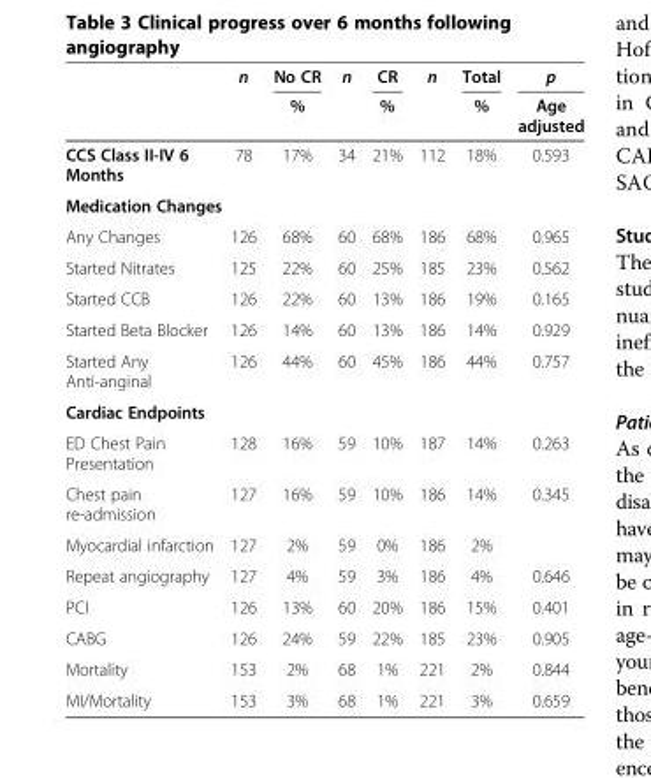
<table><thead><tr><td rowspan="2"></td><td rowspan="2">n</td><td rowspan="2">No CR %</td><td rowspan="2">n</td><td rowspan="2">CR %</td><td rowspan="2">n</td><td rowspan="2">Total %</td><td rowspan="2">p Age adjusted</td></tr><tr></tr></thead><tbody><tr><td>CCS Class II-IV 6 Months</td><td>78</td><td>17%</td><td>34</td><td>21%</td><td>112</td><td>18%</td><td>0.593</td></tr><tr><td colspan="8">Medication Changes</td></tr><tr><td>Any Changes</td><td>126</td><td>68%</td><td>60</td><td>68%</td><td>186</td><td>68%</td><td>0.965</td></tr><tr><td>Started Nitrates</td><td>125</td><td>22%</td><td>60</td><td>25%</td><td>185</td><td>23%</td><td>0.562</td></tr><tr><td>Started CCB</td><td>126</td><td>22%</td><td>60</td><td>13%</td><td>186</td><td>19%</td><td>0.165</td></tr><tr><td>Started Beta Blocker</td><td>126</td><td>14%</td><td>60</td><td>13%</td><td>186</td><td>14%</td><td>0.929</td></tr><tr><td>Started Any Anti-anginal</td><td>126</td><td>44%</td><td>60</td><td>45%</td><td>186</td><td>44%</td><td>0.757</td></tr><tr><td colspan="8">Cardiac Endpoints</td></tr><tr><td>ED Chest Pain Presentation</td><td>128</td><td>16%</td><td>59</td><td>10%</td><td>187</td><td>14%</td><td>0.263</td></tr><tr><td>Chest pain re-admission</td><td>127</td><td>16%</td><td>59</td><td>10%</td><td>186</td><td>14%</td><td>0.345</td></tr><tr><td>Myocardial infarction</td><td>127</td><td>2%</td><td>59</td><td>0%</td><td>186</td><td>2%</td><td></td></tr><tr><td>Repeat angiography</td><td>127</td><td>4%</td><td>59</td><td>3%</td><td>186</td><td>4%</td><td>0.646</td></tr><tr><td>PCI</td><td>126</td><td>13%</td><td>60</td><td>20%</td><td>186</td><td>15%</td><td>0.401</td></tr><tr><td>CABG</td><td>126</td><td>24%</td><td>59</td><td>22%</td><td>185</td><td>23%</td><td>0.905</td></tr><tr><td>Mortality</td><td>153</td><td>2%</td><td>68</td><td>1%</td><td>221</td><td>2%</td><td>0.844</td></tr><tr><td>MI/Mortality</td><td>153</td><td>3%</td><td>68</td><td>1%</td><td>221</td><td>3%</td><td>0.659</td></tr></tbody></table>